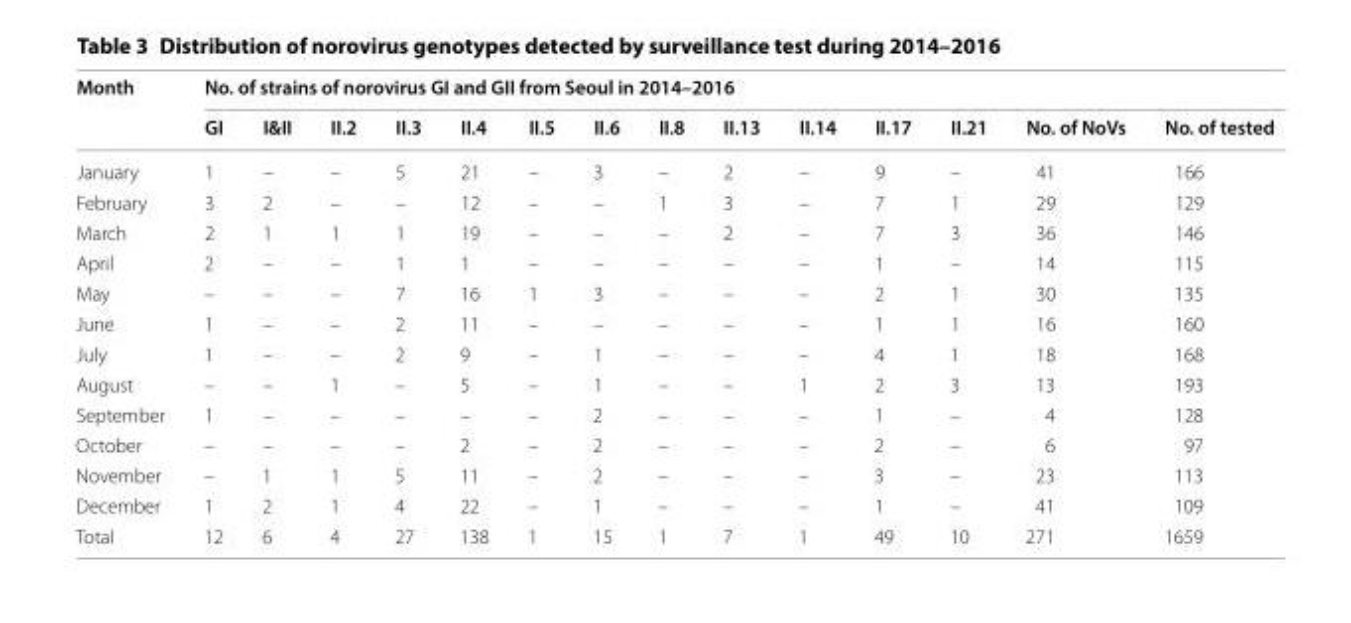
<table><thead><tr><td rowspan="2">Month</td><td colspan="14">No. of strains of norovirus GI and GII from Seoul in 2014–2016</td></tr><tr><td>GI</td><td>I&amp;II</td><td>II.2</td><td>II.3</td><td>II.4</td><td>II.5</td><td>II.6</td><td>II.8</td><td>II.13</td><td>II.14</td><td>II.17</td><td>II.21</td><td>No. of NoVs</td><td>No. of tested</td></tr></thead><tbody><tr><td>January</td><td>1</td><td>–</td><td>–</td><td>5</td><td>21</td><td>–</td><td>3</td><td>–</td><td>2</td><td>–</td><td>9</td><td>–</td><td>41</td><td>166</td></tr><tr><td>February</td><td>3</td><td>2</td><td>–</td><td>–</td><td>12</td><td>–</td><td>–</td><td>1</td><td>3</td><td>–</td><td>7</td><td>1</td><td>29</td><td>129</td></tr><tr><td>March</td><td>2</td><td>1</td><td>1</td><td>1</td><td>19</td><td>–</td><td>–</td><td>–</td><td>2</td><td>–</td><td>7</td><td>3</td><td>36</td><td>146</td></tr><tr><td>April</td><td>2</td><td>–</td><td>–</td><td>1</td><td>1</td><td>–</td><td>–</td><td>–</td><td>–</td><td>–</td><td>1</td><td>–</td><td>14</td><td>115</td></tr><tr><td>May</td><td>–</td><td>–</td><td>–</td><td>7</td><td>16</td><td>1</td><td>3</td><td>–</td><td>–</td><td>–</td><td>2</td><td>1</td><td>30</td><td>135</td></tr><tr><td>June</td><td>1</td><td>–</td><td>–</td><td>2</td><td>11</td><td>–</td><td>–</td><td>–</td><td>–</td><td>–</td><td>1</td><td>1</td><td>16</td><td>160</td></tr><tr><td>July</td><td>1</td><td>–</td><td>–</td><td>2</td><td>9</td><td>–</td><td>1</td><td>–</td><td>–</td><td>–</td><td>4</td><td>1</td><td>18</td><td>168</td></tr><tr><td>August</td><td>–</td><td>–</td><td>1</td><td>–</td><td>5</td><td>–</td><td>1</td><td>–</td><td>–</td><td>1</td><td>2</td><td>3</td><td>13</td><td>193</td></tr><tr><td>September</td><td>1</td><td>–</td><td>–</td><td>–</td><td>–</td><td>–</td><td>2</td><td>–</td><td>–</td><td>–</td><td>1</td><td>–</td><td>4</td><td>128</td></tr><tr><td>October</td><td>–</td><td>–</td><td>–</td><td>–</td><td>2</td><td>–</td><td>2</td><td>–</td><td>–</td><td>–</td><td>2</td><td>–</td><td>6</td><td>97</td></tr><tr><td>November</td><td>–</td><td>1</td><td>1</td><td>5</td><td>11</td><td>–</td><td>2</td><td>–</td><td>–</td><td>–</td><td>3</td><td>–</td><td>23</td><td>113</td></tr><tr><td>December</td><td>1</td><td>2</td><td>1</td><td>4</td><td>22</td><td>–</td><td>1</td><td>–</td><td>–</td><td>–</td><td>1</td><td>–</td><td>41</td><td>109</td></tr><tr><td>Total</td><td>12</td><td>6</td><td>4</td><td>27</td><td>138</td><td>1</td><td>15</td><td>1</td><td>7</td><td>1</td><td>49</td><td>10</td><td>271</td><td>1659</td></tr></tbody></table>